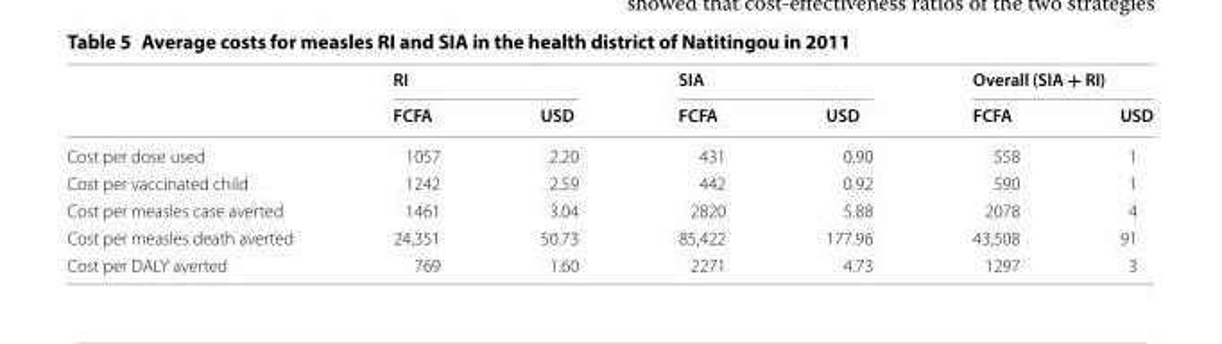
<table><thead><tr><td rowspan="2"></td><td colspan="2">RI</td><td colspan="2">SIA</td><td colspan="2">Overall (SIA + RI)</td></tr><tr><td>FCFA</td><td>USD</td><td>FCFA</td><td>USD</td><td>FCFA</td><td>USD</td></tr></thead><tbody><tr><td>Cost per dose used</td><td>1057</td><td>2.20</td><td>431</td><td>0.90</td><td>558</td><td>1</td></tr><tr><td>Cost per vaccinated child</td><td>1242</td><td>2.59</td><td>442</td><td>0.92</td><td>590</td><td>1</td></tr><tr><td>Cost per measles case averted</td><td>1461</td><td>3.04</td><td>2820</td><td>5.88</td><td>2078</td><td>4</td></tr><tr><td>Cost per measles death averted</td><td>24,351</td><td>50.73</td><td>85,422</td><td>177.96</td><td>43,508</td><td>91</td></tr><tr><td>Cost per DALY averted</td><td>769</td><td>1.60</td><td>2271</td><td>4.73</td><td>1297</td><td>3</td></tr></tbody></table>